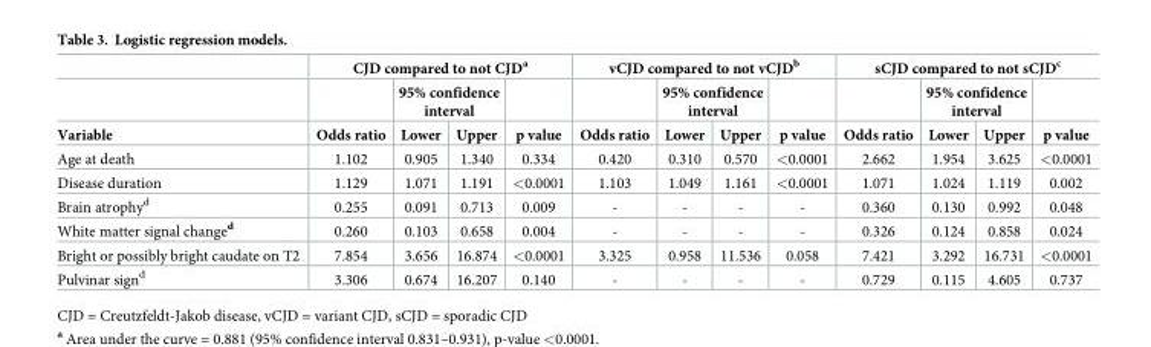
<table><thead><tr><td rowspan="3">Variable</td><td colspan="4">CJD compared to not CJD<sup>a</sup></td><td colspan="4">vCJD compared to not vCJD<sup>b</sup></td><td colspan="4">sCJD compared to not sCJD<sup>c</sup></td></tr><tr><td rowspan="2">Odds ratio</td><td colspan="2">95% confidence interval</td><td rowspan="2">p value</td><td rowspan="2">Odds ratio</td><td colspan="2">95% confidence interval</td><td rowspan="2">p value</td><td rowspan="2">Odds ratio</td><td colspan="2">95% confidence interval</td><td rowspan="2">p value</td></tr><tr><td>Lower</td><td>Upper</td><td>Lower</td><td>Upper</td><td>Lower</td><td>Upper</td></tr></thead><tbody><tr><td>Age at death</td><td>1.102</td><td>0.905</td><td>1.340</td><td>0.334</td><td>0.420</td><td>0.310</td><td>0.570</td><td>&lt;0.0001</td><td>2.662</td><td>1.954</td><td>3.625</td><td>&lt;0.0001</td></tr><tr><td>Disease duration</td><td>1.129</td><td>1.071</td><td>1.191</td><td>&lt;0.0001</td><td>1.103</td><td>1.049</td><td>1.161</td><td>&lt;0.0001</td><td>1.071</td><td>1.024</td><td>1.119</td><td>0.002</td></tr><tr><td>Brain atrophy<sup>d</sup></td><td>0.255</td><td>0.091</td><td>0.713</td><td>0.009</td><td>-</td><td>-</td><td>-</td><td>-</td><td>0.360</td><td>0.130</td><td>0.992</td><td>0.048</td></tr><tr><td>White matter signal change<sup>d</sup></td><td>0.260</td><td>0.103</td><td>0.658</td><td>0.004</td><td>-</td><td>-</td><td>-</td><td>-</td><td>0.326</td><td>0.124</td><td>0.858</td><td>0.024</td></tr><tr><td>Bright or possibly bright caudate on T2</td><td>7.854</td><td>3.656</td><td>16.874</td><td>&lt;0.0001</td><td>3.325</td><td>0.958</td><td>11.536</td><td>0.058</td><td>7.421</td><td>3.292</td><td>16.731</td><td>&lt;0.0001</td></tr><tr><td>Pulvinar sign<sup>d</sup></td><td>3.306</td><td>0.674</td><td>16.207</td><td>0.140</td><td>-</td><td>-</td><td>-</td><td>-</td><td>0.729</td><td>0.115</td><td>4.605</td><td>0.737</td></tr></tbody></table>